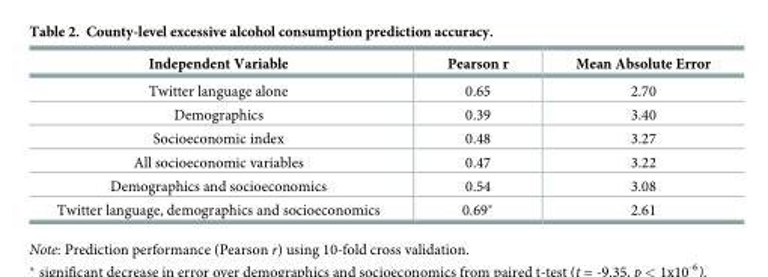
<table><thead><tr><td>Independent Variable</td><td>Pearson r</td><td>Mean Absolute Error</td></tr></thead><tbody><tr><td>Twitter language alone</td><td>0.65</td><td>2.70</td></tr><tr><td>Demographics</td><td>0.39</td><td>3.40</td></tr><tr><td>Socioeconomic index</td><td>0.48</td><td>3.27</td></tr><tr><td>All socioeconomic variables</td><td>0.47</td><td>3.22</td></tr><tr><td>Demographics and socioeconomics</td><td>0.54</td><td>3.08</td></tr><tr><td>Twitter language, demographics and socioeconomics</td><td>0.69*</td><td>2.61</td></tr></tbody></table>